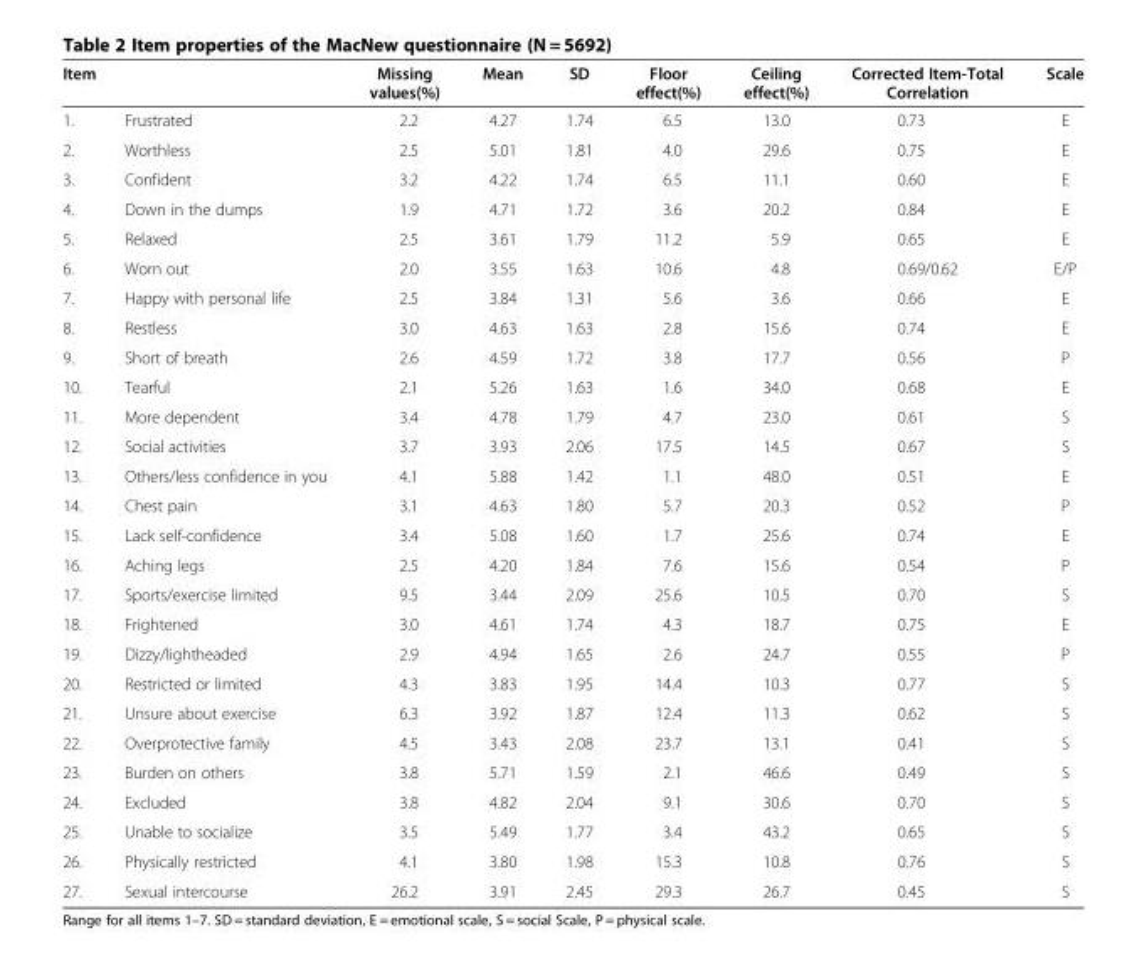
<table><thead><tr><td colspan="2">Item</td><td rowspan="2">Missing values(%) 2.2</td><td rowspan="2">Mean 4.27</td><td rowspan="2">SD 1.74</td><td rowspan="2">Floor effect(%) 6.5</td><td rowspan="2">Ceiling effect(%) 13.0</td><td rowspan="2">Corrected Item-Total Correlation 0.73</td><td rowspan="2">Scale E</td></tr><tr><td>1.</td><td>Frustrated</td></tr></thead><tbody><tr><td>2.</td><td>Worthless</td><td>2.5</td><td>5.01</td><td>1.81</td><td>4.0</td><td>29.6</td><td>0.75</td><td>E</td></tr><tr><td>3.</td><td>Confident</td><td>3.2</td><td>4.22</td><td>1.74</td><td>6.5</td><td>11.1</td><td>0.60</td><td>E</td></tr><tr><td>4.</td><td>Down in the dumps</td><td>1.9</td><td>4.71</td><td>1.72</td><td>3.6</td><td>20.2</td><td>0.84</td><td>E</td></tr><tr><td>5.</td><td>Relaxed</td><td>2.5</td><td>3.61</td><td>1.79</td><td>11.2</td><td>5.9</td><td>0.65</td><td>E</td></tr><tr><td>6.</td><td>Worn out</td><td>2.0</td><td>3.55</td><td>1.63</td><td>10.6</td><td>4.8</td><td>0.69/0.62</td><td>E/P</td></tr><tr><td>7.</td><td>Happy with personal life</td><td>2.5</td><td>3.84</td><td>1.31</td><td>5.6</td><td>3.6</td><td>0.66</td><td>E</td></tr><tr><td>8.</td><td>Restless</td><td>3.0</td><td>4.63</td><td>1.63</td><td>2.8</td><td>15.6</td><td>0.74</td><td>E</td></tr><tr><td>9.</td><td>Short of breath</td><td>2.6</td><td>4.59</td><td>1.72</td><td>3.8</td><td>17.7</td><td>0.56</td><td>P</td></tr><tr><td>10.</td><td>Tearful</td><td>2.1</td><td>5.26</td><td>1.63</td><td>1.6</td><td>34.0</td><td>0.68</td><td>E</td></tr><tr><td>11.</td><td>More dependent</td><td>3.4</td><td>4.78</td><td>1.79</td><td>4.7</td><td>23.0</td><td>0.61</td><td>S</td></tr><tr><td>12.</td><td>Social activities</td><td>3.7</td><td>3.93</td><td>2.06</td><td>17.5</td><td>14.5</td><td>0.67</td><td>S</td></tr><tr><td>13.</td><td>Others/less confidence in you</td><td>4.1</td><td>5.88</td><td>1.42</td><td>1.1</td><td>48.0</td><td>0.51</td><td>E</td></tr><tr><td>14.</td><td>Chest pain</td><td>3.1</td><td>4.63</td><td>1.80</td><td>5.7</td><td>20.3</td><td>0.52</td><td>P</td></tr><tr><td>15.</td><td>Lack self-confidence</td><td>3.4</td><td>5.08</td><td>1.60</td><td>1.7</td><td>25.6</td><td>0.74</td><td>E</td></tr><tr><td>16.</td><td>Aching legs</td><td>2.5</td><td>4.20</td><td>1.84</td><td>7.6</td><td>15.6</td><td>0.54</td><td>P</td></tr><tr><td>17.</td><td>Sports/exercise limited</td><td>9.5</td><td>3.44</td><td>2.09</td><td>25.6</td><td>10.5</td><td>0.70</td><td>S</td></tr><tr><td>18.</td><td>Frightened</td><td>3.0</td><td>4.61</td><td>1.74</td><td>4.3</td><td>18.7</td><td>0.75</td><td>E</td></tr><tr><td>19.</td><td>Dizzy/lightheaded</td><td>2.9</td><td>4.94</td><td>1.65</td><td>2.6</td><td>24.7</td><td>0.55</td><td>P</td></tr><tr><td>20.</td><td>Restricted or limited</td><td>4.3</td><td>3.83</td><td>1.95</td><td>14.4</td><td>10.3</td><td>0.77</td><td>S</td></tr><tr><td>21.</td><td>Unsure about exercise</td><td>6.3</td><td>3.92</td><td>1.87</td><td>12.4</td><td>11.3</td><td>0.62</td><td>S</td></tr><tr><td>22.</td><td>Overprotective family</td><td>4.5</td><td>3.43</td><td>2.08</td><td>23.7</td><td>13.1</td><td>0.41</td><td>S</td></tr><tr><td>23.</td><td>Burden on others</td><td>3.8</td><td>5.71</td><td>1.59</td><td>2.1</td><td>46.6</td><td>0.49</td><td>S</td></tr><tr><td>24.</td><td>Excluded</td><td>3.8</td><td>4.82</td><td>2.04</td><td>9.1</td><td>30.6</td><td>0.70</td><td>S</td></tr><tr><td>25.</td><td>Unable to socialize</td><td>3.5</td><td>5.49</td><td>1.77</td><td>3.4</td><td>43.2</td><td>0.65</td><td>S</td></tr><tr><td>26.</td><td>Physically restricted</td><td>4.1</td><td>3.80</td><td>1.98</td><td>15.3</td><td>10.8</td><td>0.76</td><td>S</td></tr><tr><td>27.</td><td>Sexual intercourse</td><td>26.2</td><td>3.91</td><td>2.45</td><td>29.3</td><td>26.7</td><td>0.45</td><td>S</td></tr></tbody></table>